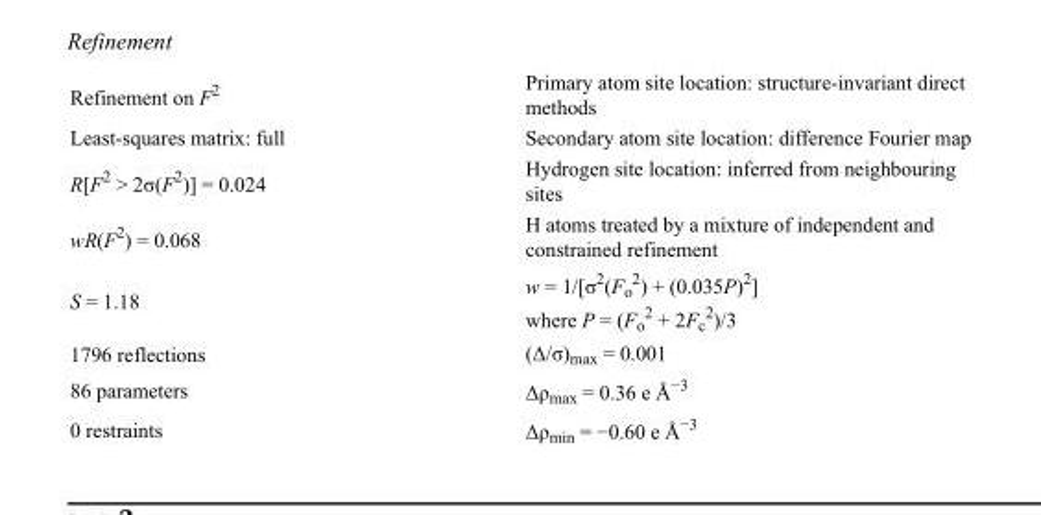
<table><tbody><tr><td>Refinement on F<sup>2</sup></td><td>Primary atom site location: structure-invariant direct methods</td></tr><tr><td>Least-squares matrix: full</td><td>Secondary atom site location: difference Fourier map</td></tr><tr><td>R[F<sup>2</sup> &gt; 2σ(F<sup>2</sup>)] = 0.024</td><td>Hydrogen site location: inferred from neighbouring sites</td></tr><tr><td>wR(F<sup>2</sup>) = 0.068</td><td>H atoms treated by a mixture of independent and constrained refinement</td></tr><tr><td>S = 1.18</td><td>w = 1/[σ<sup>2</sup>(F<sub>o</sub> <sup>2</sup>) + (0.035P)<sup>2</sup>] where P = (F<sub>o</sub> <sup>2</sup> + 2F<sub>c</sub> <sup>2</sup>)/3</td></tr><tr><td>1796 reflections</td><td>(Δ/σ)<sub>max</sub> = 0.001</td></tr><tr><td>86 parameters</td><td>Δρ<sub>max</sub> = 0.36 e Å<sup>−3</sup></td></tr><tr><td>0 restraints</td><td>Δρ<sub>min</sub> = −0.60 e Å<sup>−3</sup></td></tr></tbody></table>